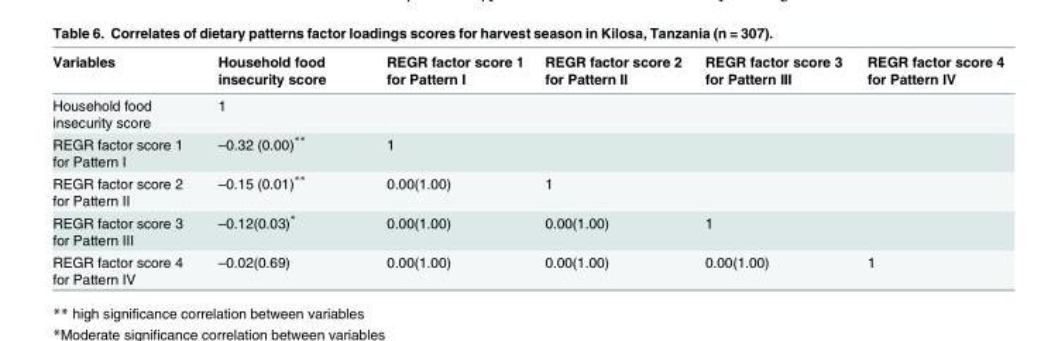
<table><thead><tr><td>Variables</td><td>Household food insecurity score</td><td>REGR factor score 1 for Pattern I</td><td>REGR factor score 2 for Pattern II</td><td>REGR factor score 3 for Pattern III</td><td>REGR factor score 4 for Pattern IV</td></tr></thead><tbody><tr><td>Household food insecurity score</td><td>1</td><td></td><td></td><td></td><td></td></tr><tr><td>REGR factor score 1 for Pattern I</td><td>–0.32 (0.00)**</td><td>1</td><td></td><td></td><td></td></tr><tr><td>REGR factor score 2 for Pattern II</td><td>–0.15 (0.01)**</td><td>0.00(1.00)</td><td>1</td><td></td><td></td></tr><tr><td>REGR factor score 3 for Pattern III</td><td>–0.12(0.03)*</td><td>0.00(1.00)</td><td>0.00(1.00)</td><td>1</td><td></td></tr><tr><td>REGR factor score 4 for Pattern IV</td><td>–0.02(0.69)</td><td>0.00(1.00)</td><td>0.00(1.00)</td><td>0.00(1.00)</td><td>1</td></tr></tbody></table>